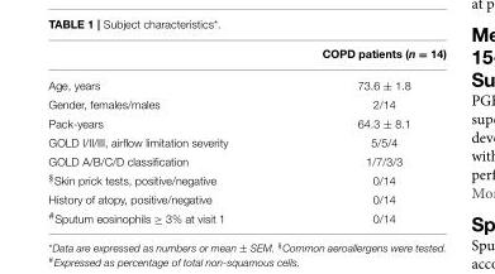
<table><thead><tr><td></td><td>COPD patients (n = 14)</td></tr></thead><tbody><tr><td>Age, years</td><td>73.6 ± 1.8</td></tr><tr><td>Gender, females/males</td><td>2/14</td></tr><tr><td>Pack-years</td><td>64.3 ± 8.1</td></tr><tr><td>GOLD I/II/III, airflow limitation severity</td><td>5/5/4</td></tr><tr><td>GOLD A/B/C/D classification</td><td>1/7/3/3</td></tr><tr><td><sup>§</sup>Skin prick tests, positive/negative</td><td>0/14</td></tr><tr><td>History of atopy, positive/negative</td><td>0/14</td></tr><tr><td><sup>#</sup>Sputum eosinophils ≥ 3% at visit 1</td><td>0/14</td></tr></tbody></table>